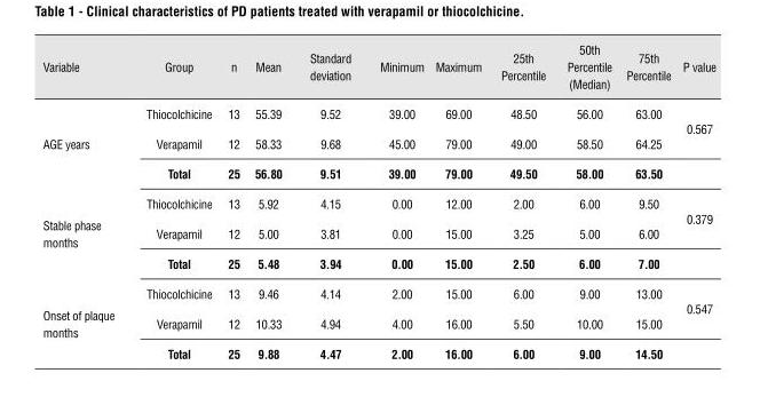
<table><thead><tr><td>Variable</td><td>Group</td><td>n</td><td>Mean</td><td>Standard deviation</td><td>Minimum</td><td>Maximum</td><td>25th Percentile</td><td>50th Percentile (Median)</td><td>75th Percentile</td><td>P value</td></tr></thead><tbody><tr><td rowspan="3">AGE years</td><td>Thiocolchicine</td><td>13</td><td>55.39</td><td>9.52</td><td>39.00</td><td>69.00</td><td>48.50</td><td>56.00</td><td>63.00</td><td rowspan="2">0.567</td></tr><tr><td>Verapamil</td><td>12</td><td>58.33</td><td>9.68</td><td>45.00</td><td>79.00</td><td>49.00</td><td>58.50</td><td>64.25</td></tr><tr><td>Total</td><td>25</td><td>56.80</td><td>9.51</td><td>39.00</td><td>79.00</td><td>49.50</td><td>58.00</td><td>63.50</td><td></td></tr><tr><td rowspan="3">Stable phase months</td><td>Thiocolchicine</td><td>13</td><td>5.92</td><td>4.15</td><td>0.00</td><td>12.00</td><td>2.00</td><td>6.00</td><td>9.50</td><td rowspan="2">0.379</td></tr><tr><td>Verapamil</td><td>12</td><td>5.00</td><td>3.81</td><td>0.00</td><td>15.00</td><td>3.25</td><td>5.00</td><td>6.00</td></tr><tr><td>Total</td><td>25</td><td>5.48</td><td>3.94</td><td>0.00</td><td>15.00</td><td>2.50</td><td>6.00</td><td>7.00</td><td></td></tr><tr><td rowspan="3">Onset of plaque months</td><td>Thiocolchicine</td><td>13</td><td>9.46</td><td>4.14</td><td>2.00</td><td>15.00</td><td>6.00</td><td>9.00</td><td>13.00</td><td rowspan="2">0.547</td></tr><tr><td>Verapamil</td><td>12</td><td>10.33</td><td>4.94</td><td>4.00</td><td>16.00</td><td>5.50</td><td>10.00</td><td>15.00</td></tr><tr><td>Total</td><td>25</td><td>9.88</td><td>4.47</td><td>2.00</td><td>16.00</td><td>6.00</td><td>9.00</td><td>14.50</td><td></td></tr></tbody></table>